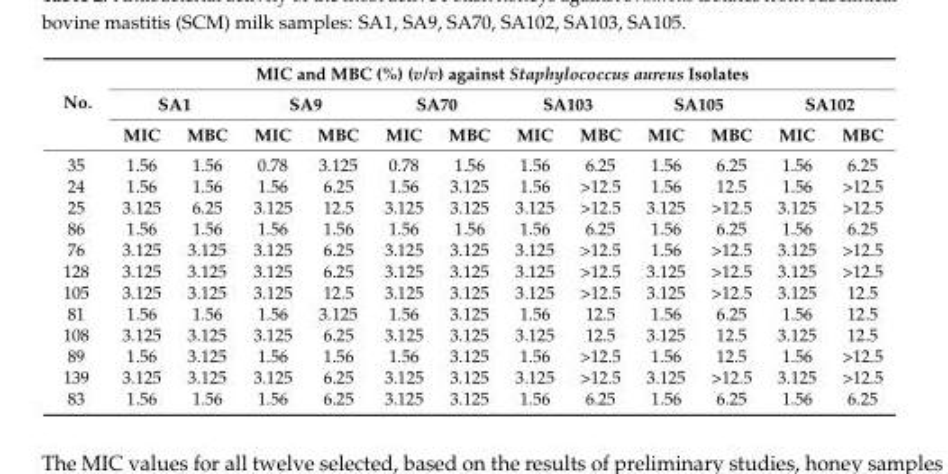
<table><thead><tr><td rowspan="3">No.</td><td colspan="12">MIC and MBC (%) (v/v) against Staphylococcus aureus Isolates</td></tr><tr><td colspan="2">SA1</td><td colspan="2">SA9</td><td colspan="2">SA70</td><td colspan="2">SA103</td><td colspan="2">SA105</td><td colspan="2">SA102</td></tr><tr><td>MIC</td><td>MBC</td><td>MIC</td><td>MBC</td><td>MIC</td><td>MBC</td><td>MIC</td><td>MBC</td><td>MIC</td><td>MBC</td><td>MIC</td><td>MBC</td></tr></thead><tbody><tr><td>35</td><td>1.56</td><td>1.56</td><td>0.78</td><td>3.125</td><td>0.78</td><td>1.56</td><td>1.56</td><td>6.25</td><td>1.56</td><td>6.25</td><td>1.56</td><td>6.25</td></tr><tr><td>24</td><td>1.56</td><td>1.56</td><td>1.56</td><td>6.25</td><td>1.56</td><td>3.125</td><td>1.56</td><td>&gt;12.5</td><td>1.56</td><td>12.5</td><td>1.56</td><td>&gt;12.5</td></tr><tr><td>25</td><td>3.125</td><td>6.25</td><td>3.125</td><td>12.5</td><td>3.125</td><td>3.125</td><td>3.125</td><td>&gt;12.5</td><td>3.125</td><td>&gt;12.5</td><td>3.125</td><td>&gt;12.5</td></tr><tr><td>86</td><td>1.56</td><td>1.56</td><td>1.56</td><td>1.56</td><td>1.56</td><td>1.56</td><td>1.56</td><td>6.25</td><td>1.56</td><td>6.25</td><td>1.56</td><td>6.25</td></tr><tr><td>76</td><td>3.125</td><td>3.125</td><td>3.125</td><td>6.25</td><td>3.125</td><td>3.125</td><td>3.125</td><td>&gt;12.5</td><td>1.56</td><td>&gt;12.5</td><td>3.125</td><td>&gt;12.5</td></tr><tr><td>128</td><td>3.125</td><td>3.125</td><td>3.125</td><td>6.25</td><td>3.125</td><td>3.125</td><td>3.125</td><td>&gt;12.5</td><td>3.125</td><td>&gt;12.5</td><td>3.125</td><td>&gt;12.5</td></tr><tr><td>105</td><td>3.125</td><td>3.125</td><td>3.125</td><td>12.5</td><td>3.125</td><td>3.125</td><td>3.125</td><td>&gt;12.5</td><td>3.125</td><td>&gt;12.5</td><td>3.125</td><td>12.5</td></tr><tr><td>81</td><td>1.56</td><td>1.56</td><td>1.56</td><td>3.125</td><td>1.56</td><td>3.125</td><td>1.56</td><td>12.5</td><td>1.56</td><td>6.25</td><td>1.56</td><td>12.5</td></tr><tr><td>108</td><td>3.125</td><td>3.125</td><td>3.125</td><td>6.25</td><td>3.125</td><td>3.125</td><td>3.125</td><td>12.5</td><td>3.125</td><td>12.5</td><td>3.125</td><td>12.5</td></tr><tr><td>89</td><td>1.56</td><td>3.125</td><td>1.56</td><td>1.56</td><td>1.56</td><td>3.125</td><td>1.56</td><td>&gt;12.5</td><td>1.56</td><td>12.5</td><td>1.56</td><td>&gt;12.5</td></tr><tr><td>139</td><td>3.125</td><td>3.125</td><td>3.125</td><td>6.25</td><td>3.125</td><td>3.125</td><td>3.125</td><td>&gt;12.5</td><td>3.125</td><td>&gt;12.5</td><td>3.125</td><td>&gt;12.5</td></tr><tr><td>83</td><td>1.56</td><td>1.56</td><td>1.56</td><td>6.25</td><td>3.125</td><td>3.125</td><td>1.56</td><td>6.25</td><td>1.56</td><td>6.25</td><td>1.56</td><td>6.25</td></tr></tbody></table>